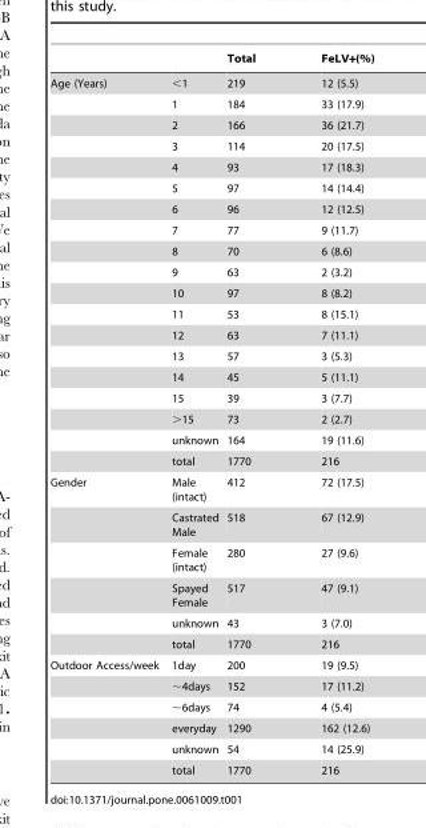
<table><thead><tr><td></td><td></td><td>Total</td><td>FeLV+(%)</td></tr></thead><tbody><tr><td rowspan="19">Age (Years)</td><td>&lt;1</td><td>219</td><td>12 (5.5)</td></tr><tr><td>1</td><td>184</td><td>33 (17.9)</td></tr><tr><td>2</td><td>166</td><td>36 (21.7)</td></tr><tr><td>3</td><td>114</td><td>20 (17.5)</td></tr><tr><td>4</td><td>93</td><td>17 (18.3)</td></tr><tr><td>5</td><td>97</td><td>14 (14.4)</td></tr><tr><td>6</td><td>96</td><td>12 (12.5)</td></tr><tr><td>7</td><td>77</td><td>9 (11.7)</td></tr><tr><td>8</td><td>70</td><td>6 (8.6)</td></tr><tr><td>9</td><td>63</td><td>2 (3.2)</td></tr><tr><td>10</td><td>97</td><td>8 (8.2)</td></tr><tr><td>11</td><td>53</td><td>8 (15.1)</td></tr><tr><td>12</td><td>63</td><td>7 (11.1)</td></tr><tr><td>13</td><td>57</td><td>3 (5.3)</td></tr><tr><td>14</td><td>45</td><td>5 (11.1)</td></tr><tr><td>15</td><td>39</td><td>3 (7.7)</td></tr><tr><td>&gt;15</td><td>73</td><td>2 (2.7)</td></tr><tr><td>unknown</td><td>164</td><td>19 (11.6)</td></tr><tr><td>total</td><td>1770</td><td>216</td></tr><tr><td rowspan="6">Gender</td><td>Male (intact)</td><td>412</td><td>72 (17.5)</td></tr><tr><td>Castrated Male</td><td>518</td><td>67 (12.9)</td></tr><tr><td>Female (intact)</td><td>280</td><td>27 (9.6)</td></tr><tr><td>Spayed Female</td><td>517</td><td>47 (9.1)</td></tr><tr><td>unknown</td><td>43</td><td>3 (7.0)</td></tr><tr><td>total</td><td>1770</td><td>216</td></tr><tr><td rowspan="6">Outdoor Access/week</td><td>1day</td><td>200</td><td>19 (9.5)</td></tr><tr><td>∼4days</td><td>152</td><td>17 (11.2)</td></tr><tr><td>∼6days</td><td>74</td><td>4 (5.4)</td></tr><tr><td>everyday</td><td>1290</td><td>162 (12.6)</td></tr><tr><td>unknown</td><td>54</td><td>14 (25.9)</td></tr><tr><td>total</td><td>1770</td><td>216</td></tr></tbody></table>